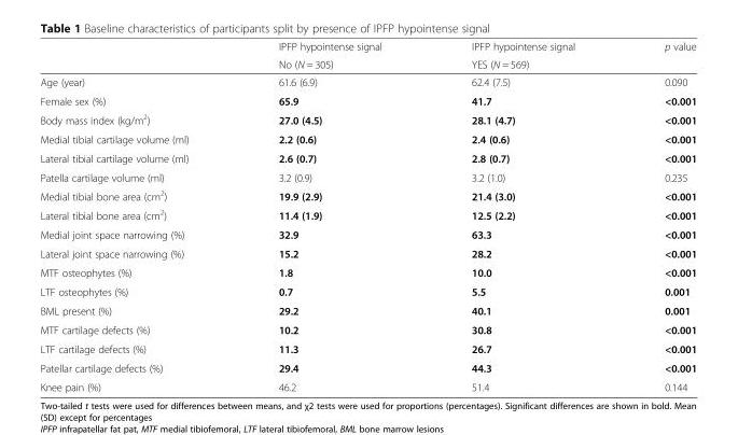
<table><thead><tr><td rowspan="2"></td><td rowspan="2">IPFP hypointense signal No (N = 305)</td><td rowspan="2">IPFP hypointense signal YES (N = 569)</td><td rowspan="2">p value</td></tr><tr></tr></thead><tbody><tr><td>Age (year)</td><td>61.6 (6.9)</td><td>62.4 (7.5)</td><td>0.090</td></tr><tr><td>Female sex (%)</td><td>65.9</td><td>41.7</td><td>&lt;0.001</td></tr><tr><td>Body mass index (kg/m<sup>2</sup>)</td><td>27.0 (4.5)</td><td>28.1 (4.7)</td><td>&lt;0.001</td></tr><tr><td>Medial tibial cartilage volume (ml)</td><td>2.2 (0.6)</td><td>2.4 (0.6)</td><td>&lt;0.001</td></tr><tr><td>Lateral tibial cartilage volume (ml)</td><td>2.6 (0.7)</td><td>2.8 (0.7)</td><td>&lt;0.001</td></tr><tr><td>Patella cartilage volume (ml)</td><td>3.2 (0.9)</td><td>3.2 (1.0)</td><td>0.235</td></tr><tr><td>Medial tibial bone area (cm<sup>2</sup>)</td><td>19.9 (2.9)</td><td>21.4 (3.0)</td><td>&lt;0.001</td></tr><tr><td>Lateral tibial bone area (cm<sup>2</sup>)</td><td>11.4 (1.9)</td><td>12.5 (2.2)</td><td>&lt;0.001</td></tr><tr><td>Medial joint space narrowing (%)</td><td>32.9</td><td>63.3</td><td>&lt;0.001</td></tr><tr><td>Lateral joint space narrowing (%)</td><td>15.2</td><td>28.2</td><td>&lt;0.001</td></tr><tr><td>MTF osteophytes (%)</td><td>1.8</td><td>10.0</td><td>&lt;0.001</td></tr><tr><td>LTF osteophytes (%)</td><td>0.7</td><td>5.5</td><td>0.001</td></tr><tr><td>BML present (%)</td><td>29.2</td><td>40.1</td><td>0.001</td></tr><tr><td>MTF cartilage defects (%)</td><td>10.2</td><td>30.8</td><td>&lt;0.001</td></tr><tr><td>LTF cartilage defects (%)</td><td>11.3</td><td>26.7</td><td>&lt;0.001</td></tr><tr><td>Patellar cartilage defects (%)</td><td>29.4</td><td>44.3</td><td>&lt;0.001</td></tr><tr><td>Knee pain (%)</td><td>46.2</td><td>51.4</td><td>0.144</td></tr></tbody></table>